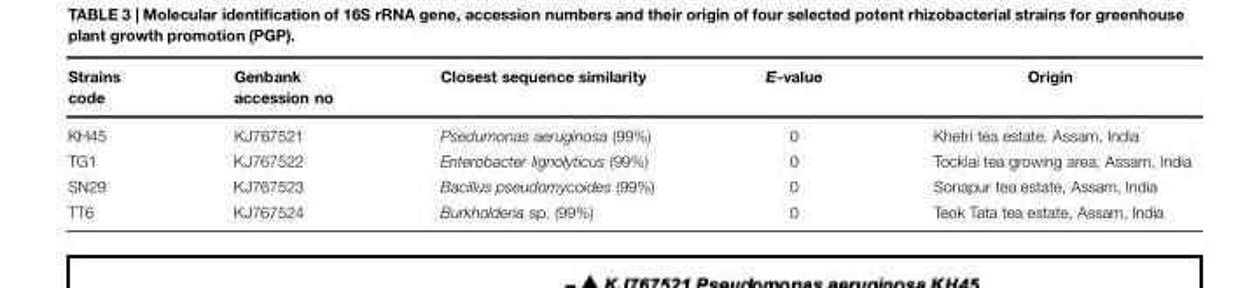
<table><thead><tr><td>Strains code</td><td>Genbank accession no</td><td>Closest sequence similarity</td><td>E-value</td><td>Origin</td></tr></thead><tbody><tr><td>KH45</td><td>KJ767521</td><td>Psedumonas aeruginosa (99%)</td><td>0</td><td>Khetri tea estate, Assam, India</td></tr><tr><td>TG1</td><td>KJ767522</td><td>Enterobacter lignolyticus (99%)</td><td>0</td><td>Tocklai tea growing area, Assam, India</td></tr><tr><td>SN29</td><td>KJ767523</td><td>Bacillus pseudomycoides (99%)</td><td>0</td><td>Sonapur tea estate, Assam, India</td></tr><tr><td>TT6</td><td>KJ767524</td><td>Burkholderia sp. (99%)</td><td>0</td><td>Teok Tata tea estate, Assam, India</td></tr></tbody></table>